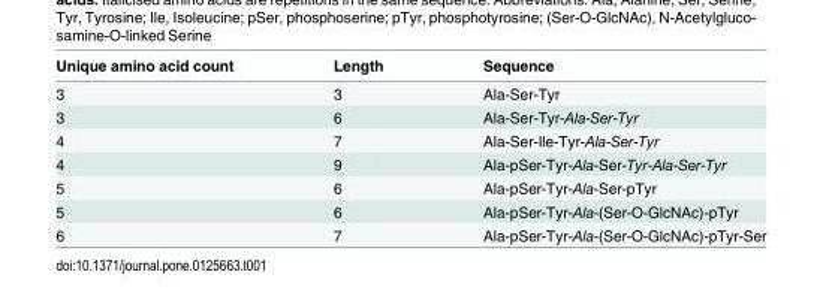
<table><thead><tr><td>Unique amino acid count</td><td>Length</td><td>Sequence</td></tr></thead><tbody><tr><td>3</td><td>3</td><td>Ala-Ser-Tyr</td></tr><tr><td>3</td><td>6</td><td>Ala-Ser-Tyr-Ala-Ser-Tyr</td></tr><tr><td>4</td><td>7</td><td>Ala-Ser-Ile-Tyr-Ala-Ser-Tyr</td></tr><tr><td>4</td><td>9</td><td>Ala-pSer-Tyr-Ala-Ser-Tyr-Ala-Ser-Tyr</td></tr><tr><td>5</td><td>6</td><td>Ala-pSer-Tyr-Ala-Ser-pTyr</td></tr><tr><td>5</td><td>6</td><td>Ala-pSer-Tyr-Ala-(Ser-O-GlcNAc)-pTyr</td></tr><tr><td>6</td><td>7</td><td>Ala-pSer-Tyr-Ala-(Ser-O-GlcNAc)-pTyr-Ser</td></tr></tbody></table>